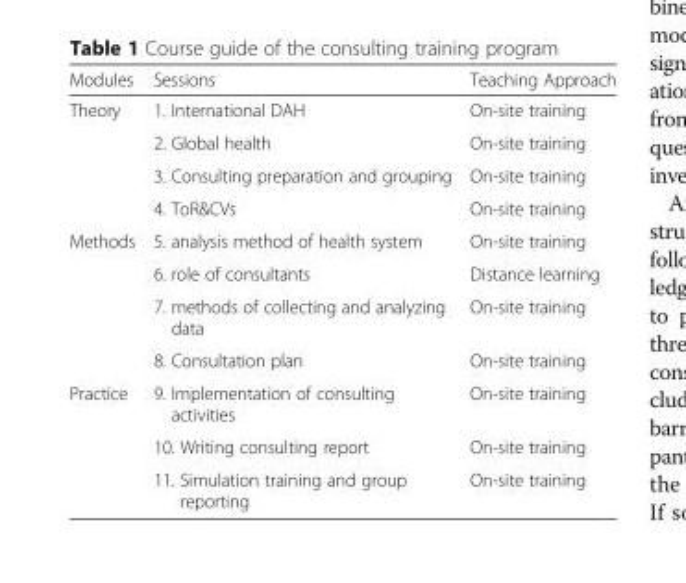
<table><thead><tr><td>Modules</td><td>Sessions</td><td>Teaching Approach</td></tr></thead><tbody><tr><td rowspan="4">Theory</td><td>1. International DAH</td><td>On-site training</td></tr><tr><td>2. Global health</td><td>On-site training</td></tr><tr><td>3. Consulting preparation and grouping</td><td>On-site training</td></tr><tr><td>4. ToR&amp;CVs</td><td>On-site training</td></tr><tr><td rowspan="4">Methods</td><td>5. analysis method of health system</td><td>On-site training</td></tr><tr><td>6. role of consultants</td><td>Distance learning</td></tr><tr><td>7. methods of collecting and analyzing data</td><td>On-site training</td></tr><tr><td>8. Consultation plan</td><td>On-site training</td></tr><tr><td rowspan="3">Practice</td><td>9. Implementation of consulting activities</td><td>On-site training</td></tr><tr><td>10. Writing consulting report</td><td>On-site training</td></tr><tr><td>11. Simulation training and group reporting</td><td>On-site training</td></tr></tbody></table>